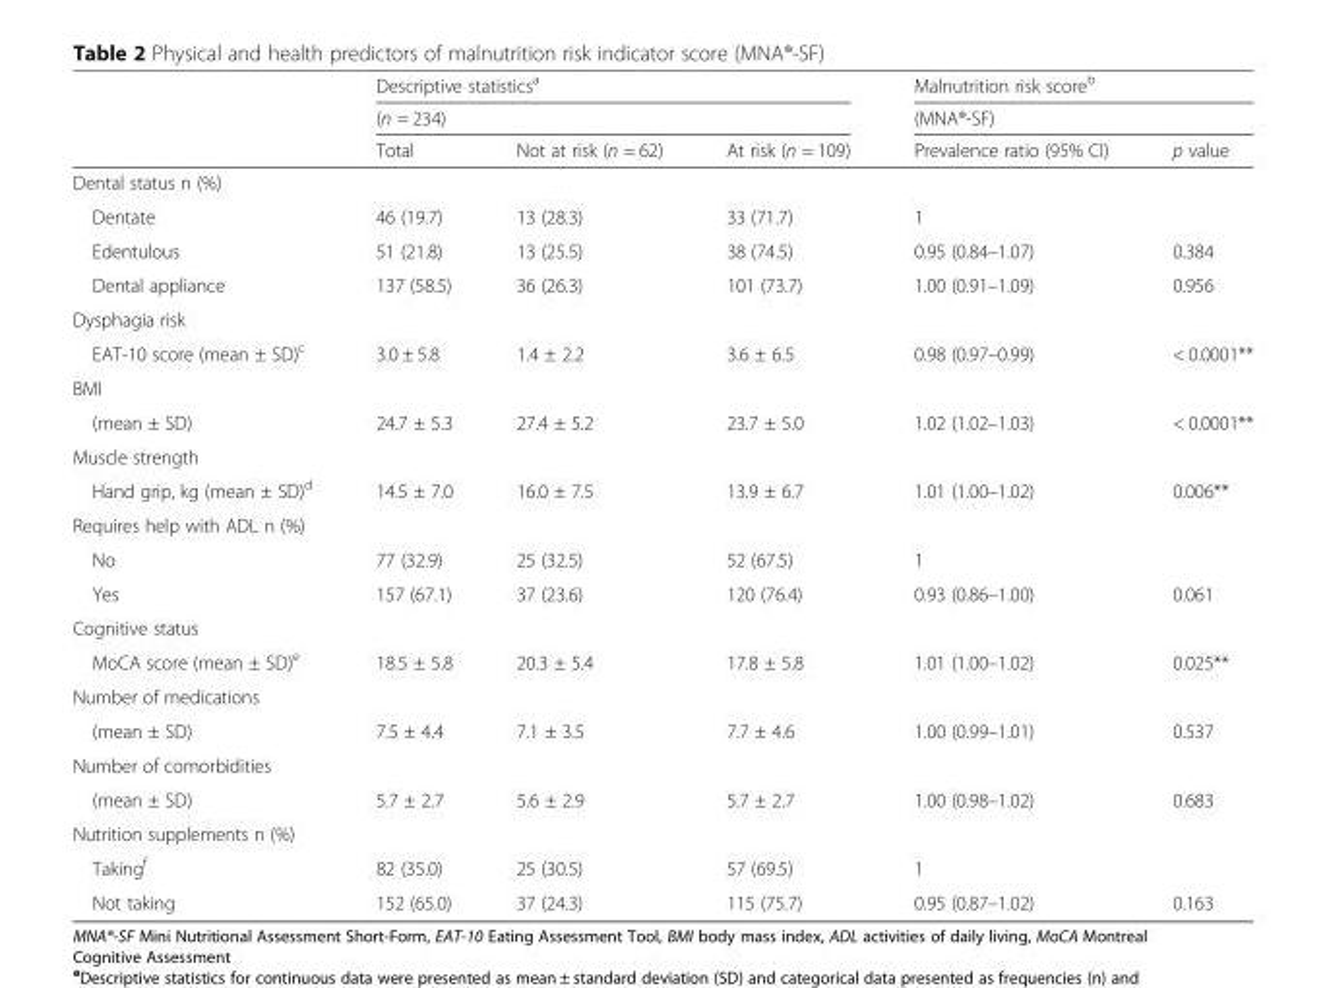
<table><thead><tr><td rowspan="3"></td><td rowspan="2" colspan="3">Descriptive statistics<sup>a</sup> (n = 234)</td><td rowspan="2" colspan="2">Malnutrition risk score<sup>b</sup> (MNA®-SF)</td></tr><tr></tr><tr><td>Total</td><td>Not at risk (n = 62)</td><td>At risk (n = 109)</td><td>Prevalence ratio (95% CI)</td><td>p value</td></tr></thead><tbody><tr><td colspan="6">Dental status n (%)</td></tr><tr><td>Dentate</td><td>46 (19.7)</td><td>13 (28.3)</td><td>33 (71.7)</td><td>1</td><td></td></tr><tr><td>Edentulous</td><td>51 (21.8)</td><td>13 (25.5)</td><td>38 (74.5)</td><td>0.95 (0.84–1.07)</td><td>0.384</td></tr><tr><td>Dental appliance</td><td>137 (58.5)</td><td>36 (26.3)</td><td>101 (73.7)</td><td>1.00 (0.91–1.09)</td><td>0.956</td></tr><tr><td colspan="6">Dysphagia risk</td></tr><tr><td>EAT-10 score (mean ± SD)<sup>c</sup></td><td>3.0 ± 5.8</td><td>1.4 ± 2.2</td><td>3.6 ± 6.5</td><td>0.98 (0.97–0.99)</td><td>&lt; 0.0001**</td></tr><tr><td colspan="6">BMI</td></tr><tr><td>(mean ± SD)</td><td>24.7 ± 5.3</td><td>27.4 ± 5.2</td><td>23.7 ± 5.0</td><td>1.02 (1.02–1.03)</td><td>&lt; 0.0001**</td></tr><tr><td colspan="6">Muscle strength</td></tr><tr><td>Hand grip, kg (mean ± SD)<sup>d</sup></td><td>14.5 ± 7.0</td><td>16.0 ± 7.5</td><td>13.9 ± 6.7</td><td>1.01 (1.00–1.02)</td><td>0.006**</td></tr><tr><td colspan="6">Requires help with ADL n (%)</td></tr><tr><td>No</td><td>77 (32.9)</td><td>25 (32.5)</td><td>52 (67.5)</td><td>1</td><td></td></tr><tr><td>Yes</td><td>157 (67.1)</td><td>37 (23.6)</td><td>120 (76.4)</td><td>0.93 (0.86–1.00)</td><td>0.061</td></tr><tr><td colspan="6">Cognitive status</td></tr><tr><td>MoCA score (mean ± SD)<sup>e</sup></td><td>18.5 ± 5.8</td><td>20.3 ± 5.4</td><td>17.8 ± 5.8</td><td>1.01 (1.00–1.02)</td><td>0.025**</td></tr><tr><td colspan="6">Number of medications</td></tr><tr><td>(mean ± SD)</td><td>7.5 ± 4.4</td><td>7.1 ± 3.5</td><td>7.7 ± 4.6</td><td>1.00 (0.99–1.01)</td><td>0.537</td></tr><tr><td colspan="6">Number of comorbidities</td></tr><tr><td>(mean ± SD)</td><td>5.7 ± 2.7</td><td>5.6 ± 2.9</td><td>5.7 ± 2.7</td><td>1.00 (0.98–1.02)</td><td>0.683</td></tr><tr><td colspan="6">Nutrition supplements n (%)</td></tr><tr><td>Taking<sup>f</sup></td><td>82 (35.0)</td><td>25 (30.5)</td><td>57 (69.5)</td><td>1</td><td></td></tr><tr><td>Not taking</td><td>152 (65.0)</td><td>37 (24.3)</td><td>115 (75.7)</td><td>0.95 (0.87–1.02)</td><td>0.163</td></tr></tbody></table>